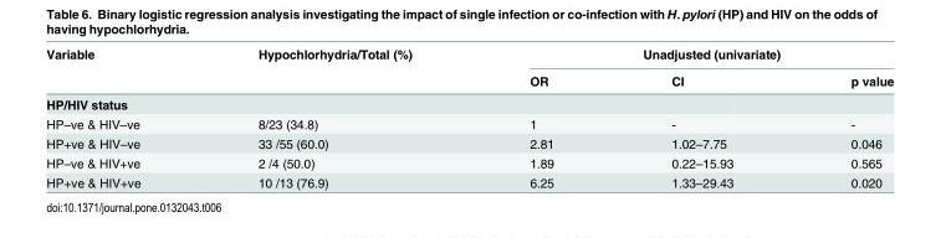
<table><thead><tr><td rowspan="2">Variable</td><td rowspan="2">Hypochlorhydria/Total (%)</td><td colspan="3">Unadjusted (univariate)</td></tr><tr><td>OR</td><td>CI</td><td>p value</td></tr></thead><tbody><tr><td colspan="5">HP/HIV status</td></tr><tr><td>HP–ve &amp; HIV–ve</td><td>8/23 (34.8)</td><td>1</td><td>-</td><td>-</td></tr><tr><td>HP+ve &amp; HIV–ve</td><td>33 /55 (60.0)</td><td>2.81</td><td>1.02–7.75</td><td>0.046</td></tr><tr><td>HP–ve &amp; HIV+ve</td><td>2 /4 (50.0)</td><td>1.89</td><td>0.22–15.93</td><td>0.565</td></tr><tr><td>HP+ve &amp; HIV+ve</td><td>10 /13 (76.9)</td><td>6.25</td><td>1.33–29.43</td><td>0.020</td></tr></tbody></table>